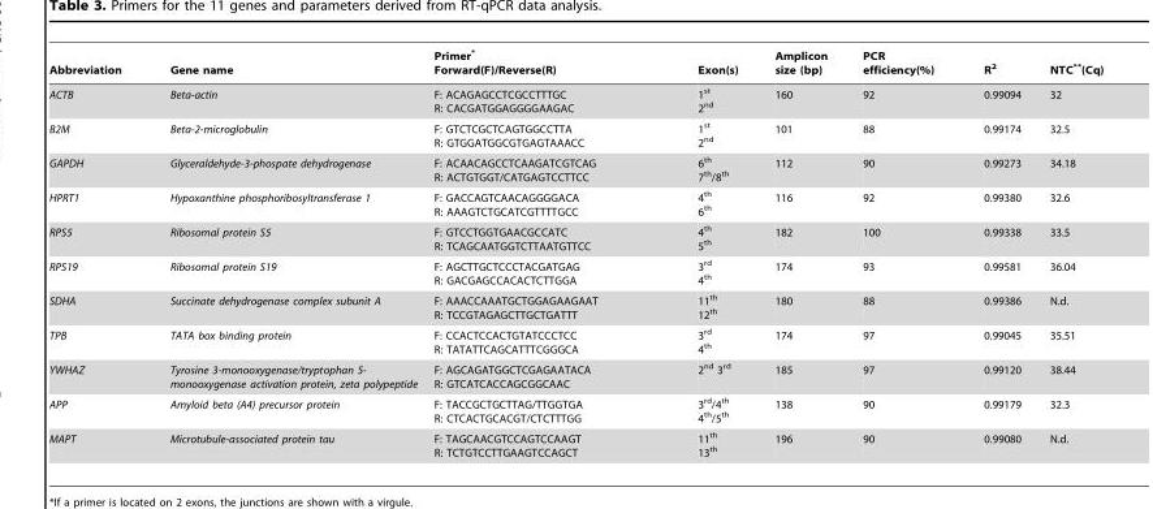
<table><thead><tr><td>Abbreviation</td><td>Gene name</td><td>Primer* Forward(F)/Reverse(R)</td><td>Exon(s)</td><td>Amplicon size (bp)</td><td>PCR efficiency(%)</td><td>R<sup>2</sup></td><td>NTC**(Cq)</td></tr></thead><tbody><tr><td>ACTB</td><td>Beta-actin</td><td>F: ACAGAGCCTCGCCTTTGC R: CACGATGGAGGGGAAGAC</td><td>1<sup>st</sup> 2<sup>nd</sup></td><td>160</td><td>92</td><td>0.99094</td><td>32</td></tr><tr><td>B2M</td><td>Beta-2-microglobulin</td><td>F: GTCTCGCTCAGTGGCCTTA R: GTGGATGGCGTGAGTAAACC</td><td>1<sup>st</sup> 2<sup>nd</sup></td><td>101</td><td>88</td><td>0.99174</td><td>32.5</td></tr><tr><td>GAPDH</td><td>Glyceraldehyde-3-phospate dehydrogenase</td><td>F: ACAACAGCCTCAAGATCGTCAG R: ACTGTGGT/CATGAGTCCTTCC</td><td>6<sup>th</sup> 7<sup>th</sup>/8<sup>th</sup></td><td>112</td><td>90</td><td>0.99273</td><td>34.18</td></tr><tr><td>HPRT1</td><td>Hypoxanthine phosphoribosyltransferase 1</td><td>F: GACCAGTCAACAGGGGACA R: AAAGTCTGCATCGTTTTGCC</td><td>4<sup>th</sup> 6<sup>th</sup></td><td>116</td><td>92</td><td>0.99380</td><td>32.6</td></tr><tr><td>RPS5</td><td>Ribosomal protein S5</td><td>F: GTCCTGGTGAACGCCATC R: TCAGCAATGGTCTTAATGTTCC</td><td>4<sup>th</sup> 5<sup>th</sup></td><td>182</td><td>100</td><td>0.99338</td><td>33.5</td></tr><tr><td>RPS19</td><td>Ribosomal protein S19</td><td>F: AGCTTGCTCCCTACGATGAG R: GACGAGCCACACTCTTGGA</td><td>3<sup>rd</sup> 4<sup>th</sup></td><td>174</td><td>93</td><td>0.99581</td><td>36.04</td></tr><tr><td>SDHA</td><td>Succinate dehydrogenase complex subunit A</td><td>F: AAACCAAATGCTGGAGAAGAAT R: TCCGTAGAGCTTGCTGATTT</td><td>11<sup>th</sup> 12<sup>th</sup></td><td>180</td><td>88</td><td>0.99386</td><td>N.d.</td></tr><tr><td>TPB</td><td>TATA box binding protein</td><td>F: CCACTCCACTGTATCCCTCC R: TATATTCAGCATTTCGGGCA</td><td>3<sup>rd</sup> 4<sup>th</sup></td><td>174</td><td>97</td><td>0.99045</td><td>35.51</td></tr><tr><td>YWHAZ</td><td>Tyrosine 3-monooxygenase/tryptophan 5- monooxygenase activation protein, zeta polypeptide</td><td>F: AGCAGATGGCTCGAGAATACA R: GTCATCACCAGCGGCAAC</td><td>2<sup>nd</sup> 3<sup>rd</sup></td><td>185</td><td>97</td><td>0.99120</td><td>38.44</td></tr><tr><td>APP</td><td>Amyloid beta (A4) precursor protein</td><td>F: TACCGCTGCTTAG/TTGGTGA R: CTCACTGCACGT/CTCTTTGG</td><td>3<sup>rd</sup>/4<sup>th</sup> 4<sup>th</sup>/5<sup>th</sup></td><td>138</td><td>90</td><td>0.99179</td><td>32.3</td></tr><tr><td>MAPT</td><td>Microtubule-associated protein tau</td><td>F: TAGCAACGTCCAGTCCAAGT R: TCTGTCCTTGAAGTCCAGCT</td><td>11<sup>th</sup> 13<sup>th</sup></td><td>196</td><td>90</td><td>0.99080</td><td>N.d.</td></tr></tbody></table>